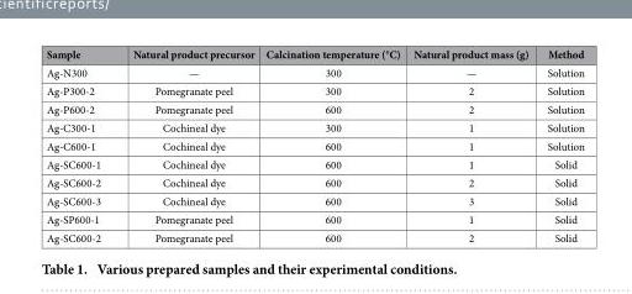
<table><thead><tr><td>Sample</td><td>Natural product precursor</td><td>Calcination temperature (°C)</td><td>Natural product mass (g)</td><td>Method</td></tr></thead><tbody><tr><td>Ag-N300</td><td>—</td><td>300</td><td>—</td><td>Solution</td></tr><tr><td>Ag-P300-2</td><td>Pomegranate peel</td><td>300</td><td>2</td><td>Solution</td></tr><tr><td>Ag-P600-2</td><td>Pomegranate peel</td><td>600</td><td>2</td><td>Solution</td></tr><tr><td>Ag-C300-1</td><td>Cochineal dye</td><td>300</td><td>1</td><td>Solution</td></tr><tr><td>Ag-C600-1</td><td>Cochineal dye</td><td>600</td><td>1</td><td>Solution</td></tr><tr><td>Ag-SC600-1</td><td>Cochineal dye</td><td>600</td><td>1</td><td>Solid</td></tr><tr><td>Ag-SC600-2</td><td>Cochineal dye</td><td>600</td><td>2</td><td>Solid</td></tr><tr><td>Ag-SC600-3</td><td>Cochineal dye</td><td>600</td><td>3</td><td>Solid</td></tr><tr><td>Ag-SP600-1</td><td>Pomegranate peel</td><td>600</td><td>1</td><td>Solid</td></tr><tr><td>Ag-SC600-2</td><td>Pomegranate peel</td><td>600</td><td>2</td><td>Solid</td></tr></tbody></table>